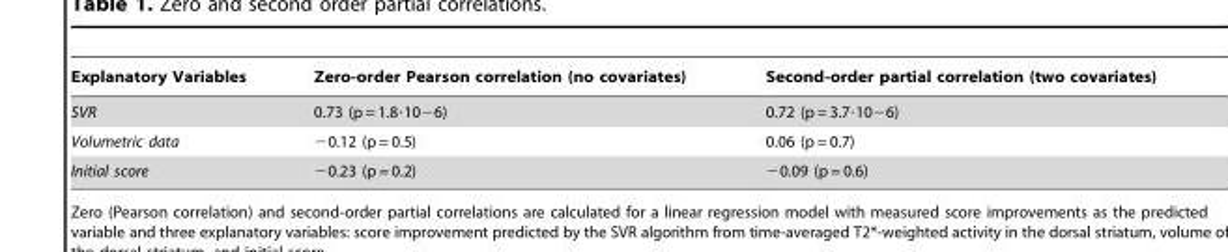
<table><thead><tr><td>Explanatory Variables</td><td>Zero-order Pearson correlation (no covariates)</td><td>Second-order partial correlation (two covariates)</td></tr></thead><tbody><tr><td>SVR</td><td>0.73 (p = 1.8·10−6)</td><td>0.72 (p = 3.7·10−6)</td></tr><tr><td>Volumetric data</td><td>−0.12 (p = 0.5)</td><td>0.06 (p = 0.7)</td></tr><tr><td>Initial score</td><td>−0.23 (p = 0.2)</td><td>−0.09 (p = 0.6)</td></tr></tbody></table>